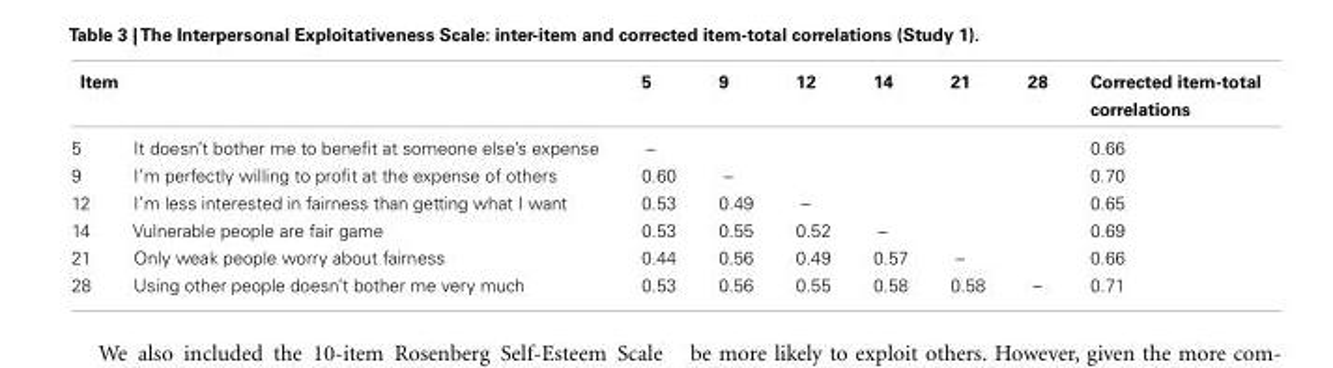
<table><thead><tr><td colspan="2">Item</td><td rowspan="2">5 –</td><td rowspan="2">9</td><td rowspan="2">12</td><td rowspan="2">14</td><td rowspan="2">21</td><td rowspan="2">28</td><td rowspan="2">Corrected item-total correlations 0.66</td></tr><tr><td>5</td><td>It doesn’t bother me to benefit at someone else’s expense</td></tr></thead><tbody><tr><td>9</td><td>I’m perfectly willing to profit at the expense of others</td><td>0.60</td><td>–</td><td></td><td></td><td></td><td></td><td>0.70</td></tr><tr><td>12</td><td>I’m less interested in fairness than getting what I want</td><td>0.53</td><td>0.49</td><td>–</td><td></td><td></td><td></td><td>0.65</td></tr><tr><td>14</td><td>Vulnerable people are fair game</td><td>0.53</td><td>0.55</td><td>0.52</td><td>–</td><td></td><td></td><td>0.69</td></tr><tr><td>21</td><td>Only weak people worry about fairness</td><td>0.44</td><td>0.56</td><td>0.49</td><td>0.57</td><td>–</td><td></td><td>0.66</td></tr><tr><td>28</td><td>Using other people doesn’t bother me very much</td><td>0.53</td><td>0.56</td><td>0.55</td><td>0.58</td><td>0.58</td><td>–</td><td>0.71</td></tr></tbody></table>